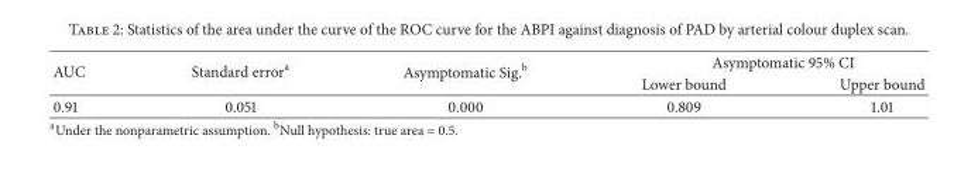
<table><thead><tr><td rowspan="2">AUC</td><td rowspan="2">Standard error<sup>a</sup></td><td rowspan="2">Asymptomatic Sig.<sup>b</sup></td><td colspan="2">Asymptomatic 95% CI</td></tr><tr><td>Lower bound</td><td>Upper bound</td></tr></thead><tbody><tr><td>0.91</td><td>0.051</td><td>0.000</td><td>0.809</td><td>1.01</td></tr></tbody></table>